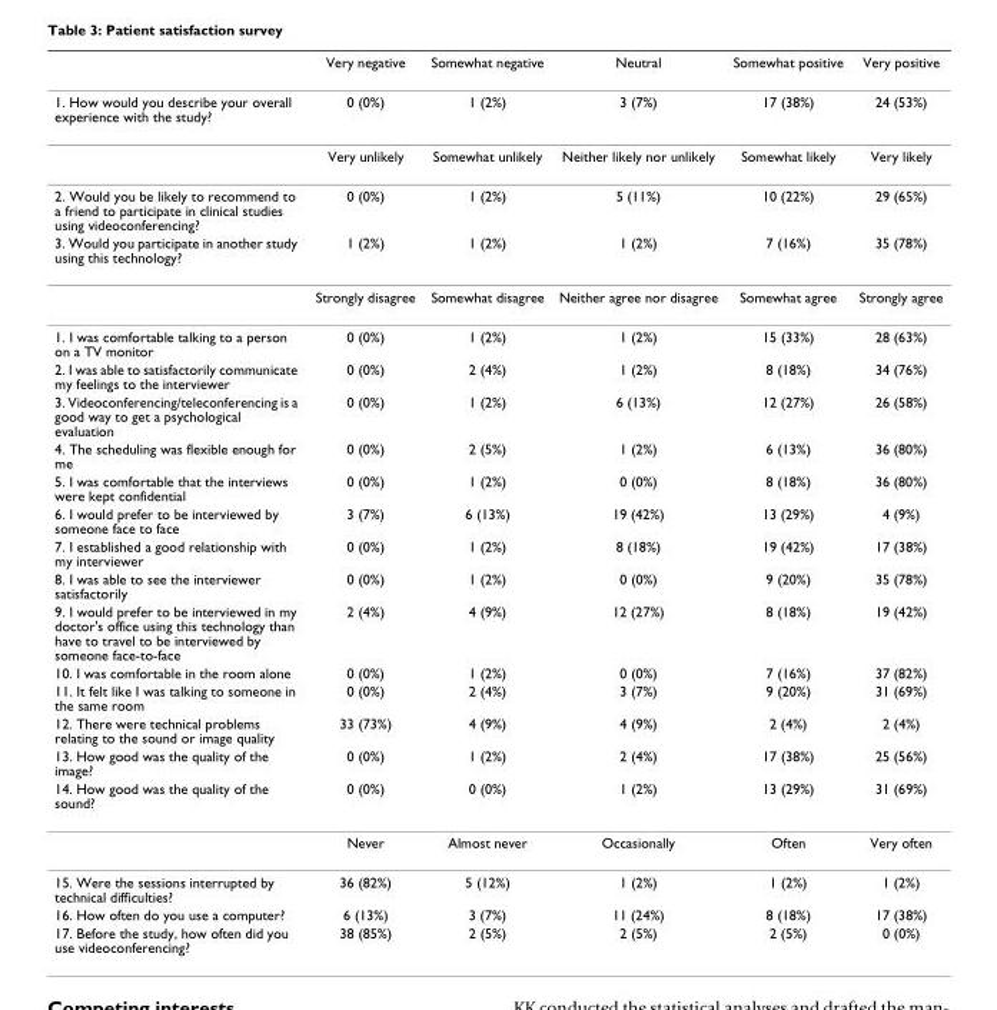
<table><thead><tr><td></td><td>Very negative</td><td>Somewhat negative</td><td>Neutral</td><td>Somewhat positive</td><td>Very positive</td></tr></thead><tbody><tr><td rowspan="2">1. How would you describe your overall experience with the study?</td><td>0 (0%)</td><td>1 (2%)</td><td>3 (7%)</td><td>17 (38%)</td><td>24 (53%)</td></tr><tr><td>Very unlikely</td><td>Somewhat unlikely</td><td>Neither likely nor unlikely</td><td>Somewhat likely</td><td>Very likely</td></tr><tr><td>2. Would you be likely to recommend to a friend to participate in clinical studies using videoconferencing?</td><td>0 (0%)</td><td>1 (2%)</td><td>5 (11%)</td><td>10 (22%)</td><td>29 (65%)</td></tr><tr><td rowspan="2">3. Would you participate in another study using this technology?</td><td>1 (2%)</td><td>1 (2%)</td><td>1 (2%)</td><td>7 (16%)</td><td>35 (78%)</td></tr><tr><td>Strongly disagree</td><td>Somewhat disagree</td><td>Neither agree nor disagree</td><td>Somewhat agree</td><td>Strongly agree</td></tr><tr><td>1. I was comfortable talking to a person on a TV monitor</td><td>0 (0%)</td><td>1 (2%)</td><td>1 (2%)</td><td>15 (33%)</td><td>28 (63%)</td></tr><tr><td>2. I was able to satisfactorily communicate my feelings to the interviewer</td><td>0 (0%)</td><td>2 (4%)</td><td>1 (2%)</td><td>8 (18%)</td><td>34 (76%)</td></tr><tr><td>3. Videoconferencing/teleconferencing is a good way to get a psychological evaluation</td><td>0 (0%)</td><td>1 (2%)</td><td>6 (13%)</td><td>12 (27%)</td><td>26 (58%)</td></tr><tr><td>4. The scheduling was flexible enough for me</td><td>0 (0%)</td><td>2 (5%)</td><td>1 (2%)</td><td>6 (13%)</td><td>36 (80%)</td></tr><tr><td>5. I was comfortable that the interviews were kept confidential</td><td>0 (0%)</td><td>1 (2%)</td><td>0 (0%)</td><td>8 (18%)</td><td>36 (80%)</td></tr><tr><td>6. I would prefer to be interviewed by someone face to face</td><td>3 (7%)</td><td>6 (13%)</td><td>19 (42%)</td><td>13 (29%)</td><td>4 (9%)</td></tr><tr><td>7. I established a good relationship with my interviewer</td><td>0 (0%)</td><td>1 (2%)</td><td>8 (18%)</td><td>19 (42%)</td><td>17 (38%)</td></tr><tr><td>8. I was able to see the interviewer satisfactorily</td><td>0 (0%)</td><td>1 (2%)</td><td>0 (0%)</td><td>9 (20%)</td><td>35 (78%)</td></tr><tr><td>9. I would prefer to be interviewed in my doctor&#x27;s office using this technology than have to travel to be interviewed by someone face-to-face</td><td>2 (4%)</td><td>4 (9%)</td><td>12 (27%)</td><td>8 (18%)</td><td>19 (42%)</td></tr><tr><td>10. I was comfortable in the room alone</td><td>0 (0%)</td><td>1 (2%)</td><td>0 (0%)</td><td>7 (16%)</td><td>37 (82%)</td></tr><tr><td>11. It felt like I was talking to someone in the same room</td><td>0 (0%)</td><td>2 (4%)</td><td>3 (7%)</td><td>9 (20%)</td><td>31 (69%)</td></tr><tr><td>12. There were technical problems relating to the sound or image quality</td><td>33 (73%)</td><td>4 (9%)</td><td>4 (9%)</td><td>2 (4%)</td><td>2 (4%)</td></tr><tr><td>13. How good was the quality of the image?</td><td>0 (0%)</td><td>1 (2%)</td><td>2 (4%)</td><td>17 (38%)</td><td>25 (56%)</td></tr><tr><td rowspan="2">14. How good was the quality of the sound?</td><td>0 (0%)</td><td>0 (0%)</td><td>1 (2%)</td><td>13 (29%)</td><td>31 (69%)</td></tr><tr><td>Never</td><td>Almost never</td><td>Occasionally</td><td>Often</td><td>Very often</td></tr><tr><td>15. Were the sessions interrupted by technical difficulties?</td><td>36 (82%)</td><td>5 (12%)</td><td>1 (2%)</td><td>1 (2%)</td><td>1 (2%)</td></tr><tr><td>16. How often do you use a computer?</td><td>6 (13%)</td><td>3 (7%)</td><td>11 (24%)</td><td>8 (18%)</td><td>17 (38%)</td></tr><tr><td>17. Before the study, how often did you use videoconferencing?</td><td>38 (85%)</td><td>2 (5%)</td><td>2 (5%)</td><td>2 (5%)</td><td>0 (0%)</td></tr></tbody></table>